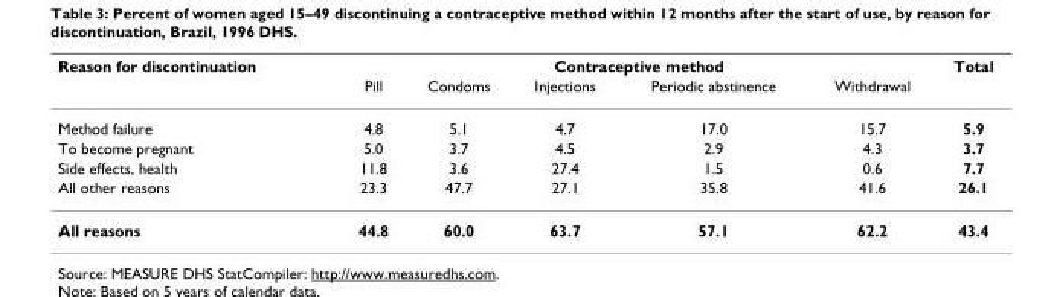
<table><thead><tr><td rowspan="2">Reason for discontinuation</td><td colspan="5">Contraceptive method</td><td rowspan="2">Total</td></tr><tr><td>Pill</td><td>Condoms</td><td>Injections</td><td>Periodic abstinence</td><td>Withdrawal</td></tr></thead><tbody><tr><td>Method failure</td><td>4.8</td><td>5.1</td><td>4.7</td><td>17.0</td><td>15.7</td><td>5.9</td></tr><tr><td>To become pregnant</td><td>5.0</td><td>3.7</td><td>4.5</td><td>2.9</td><td>4.3</td><td>3.7</td></tr><tr><td>Side effects, health</td><td>11.8</td><td>3.6</td><td>27.4</td><td>1.5</td><td>0.6</td><td>7.7</td></tr><tr><td>All other reasons</td><td>23.3</td><td>47.7</td><td>27.1</td><td>35.8</td><td>41.6</td><td>26.1</td></tr><tr><td>All reasons</td><td>44.8</td><td>60.0</td><td>63.7</td><td>57.1</td><td>62.2</td><td>43.4</td></tr></tbody></table>